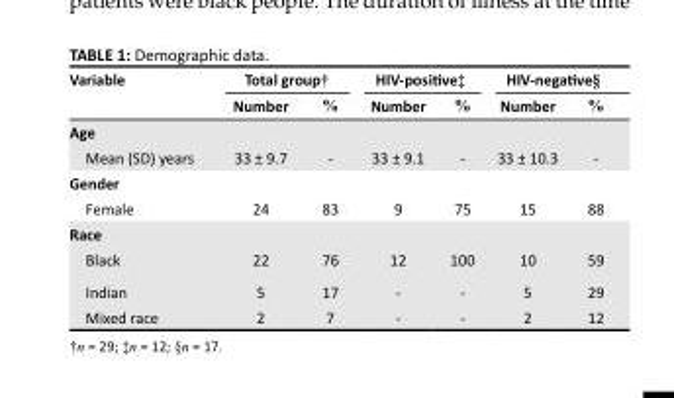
<table><thead><tr><td rowspan="2">Variable</td><td colspan="2">Total group†</td><td colspan="2">HIV-positive‡</td><td colspan="2">HIV-negative§</td></tr><tr><td>Number</td><td>%</td><td>Number</td><td>%</td><td>Number</td><td>%</td></tr></thead><tbody><tr><td colspan="7">Age</td></tr><tr><td>Mean (SD) years</td><td>33 ± 9.7</td><td>-</td><td>33 ± 9.1</td><td>-</td><td>33 ± 10.3</td><td>-</td></tr><tr><td colspan="7">Gender</td></tr><tr><td>Female</td><td>24</td><td>83</td><td>9</td><td>75</td><td>15</td><td>88</td></tr><tr><td colspan="7">Race</td></tr><tr><td>Black</td><td>22</td><td>76</td><td>12</td><td>100</td><td>10</td><td>59</td></tr><tr><td>Indian</td><td>5</td><td>17</td><td>-</td><td>-</td><td>5</td><td>29</td></tr><tr><td>Mixed race</td><td>2</td><td>7</td><td>-</td><td>-</td><td>2</td><td>12</td></tr></tbody></table>